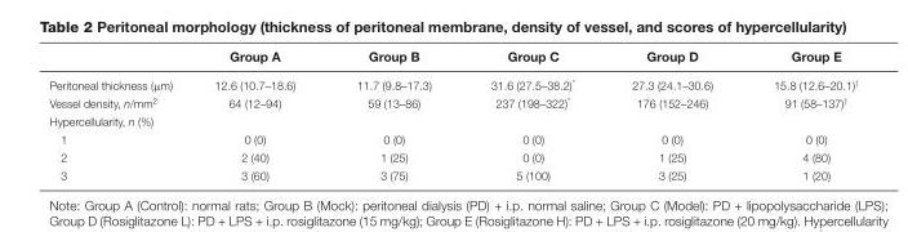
<table><thead><tr><td></td><td>Group A</td><td>Group B</td><td>Group C</td><td>Group D</td><td>Group E</td></tr></thead><tbody><tr><td>Peritoneal thickness (μm)</td><td>12.6 (10.7–18.6)</td><td>11.7 (9.8–17.3)</td><td>31.6 (27.5–38.2)*</td><td>27.3 (24.1–30.6)</td><td>15.8 (12.6–20.1)<sup>†</sup></td></tr><tr><td>Vessel density, n/mm<sup>2</sup></td><td>64 (12–94)</td><td>59 (13–86)</td><td>237 (198–322)*</td><td>176 (152–246)</td><td>91 (58–137)<sup>†</sup></td></tr><tr><td colspan="6">Hypercellularity, n (%)</td></tr><tr><td>1</td><td>0 (0)</td><td>0 (0)</td><td>0 (0)</td><td>0 (0)</td><td>0 (0)</td></tr><tr><td>2</td><td>2 (40)</td><td>1 (25)</td><td>0 (0)</td><td>1 (25)</td><td>4 (80)</td></tr><tr><td>3</td><td>3 (60)</td><td>3 (75)</td><td>5 (100)</td><td>3 (25)</td><td>1 (20)</td></tr></tbody></table>